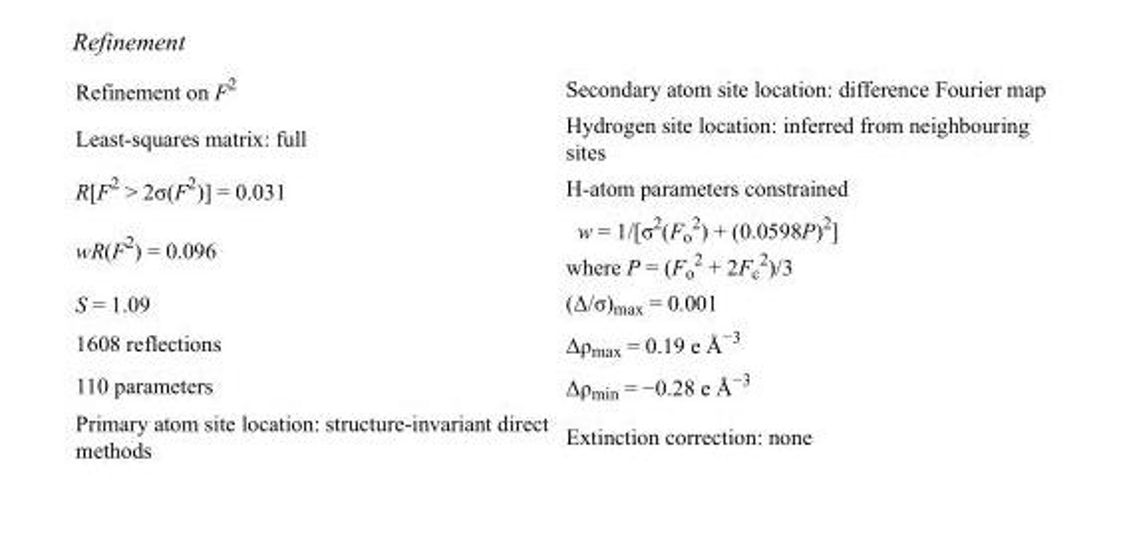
<table><tbody><tr><td>Refinement on F<sup>2</sup></td><td>Secondary atom site location: difference Fourier map</td></tr><tr><td>Least-squares matrix: full</td><td>Hydrogen site location: inferred from neighbouring sites</td></tr><tr><td>R[F<sup>2</sup> &gt; 2σ(F<sup>2</sup>)] = 0.031</td><td>H-atom parameters constrained</td></tr><tr><td>wR(F<sup>2</sup>) = 0.096</td><td>w = 1/[σ<sup>2</sup>(F<sub>o</sub> <sup>2</sup>) + (0.0598P)<sup>2</sup>] where P = (F<sub>o</sub> <sup>2</sup> + 2F<sub>c</sub> <sup>2</sup>)/3</td></tr><tr><td>S = 1.09</td><td>(Δ/σ)<sub>max</sub> = 0.001</td></tr><tr><td>1608 reflections</td><td>Δρ<sub>max</sub> = 0.19 e Å<sup>−3</sup></td></tr><tr><td>110 parameters</td><td>Δρ<sub>min</sub> = −0.28 e Å<sup>−3</sup></td></tr><tr><td>Primary atom site location: structure-invariant direct methods</td><td>Extinction correction: none</td></tr></tbody></table>